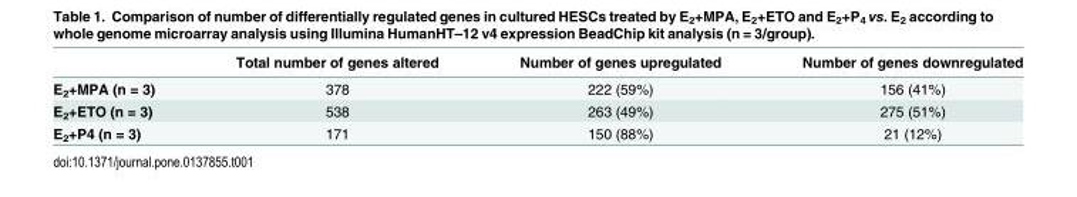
<table><thead><tr><td></td><td>Total number of genes altered</td><td>Number of genes upregulated</td><td>Number of genes downregulated</td></tr></thead><tbody><tr><td>E<sub>2</sub>+MPA (n = 3)</td><td>378</td><td>222 (59%)</td><td>156 (41%)</td></tr><tr><td>E<sub>2</sub>+ETO (n = 3)</td><td>538</td><td>263 (49%)</td><td>275 (51%)</td></tr><tr><td>E<sub>2</sub>+P4 (n = 3)</td><td>171</td><td>150 (88%)</td><td>21 (12%)</td></tr></tbody></table>